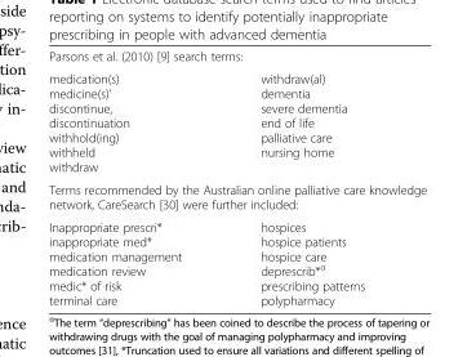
<table><tbody><tr><td colspan="2">Parsons et al. (2010) [9] search terms:</td></tr><tr><td>medication(s) medicine(s)’ discontinue, discontinuation withhold(ing) withheld withdraw</td><td>withdraw(al) dementia severe dementia end of life palliative care nursing home</td></tr><tr><td colspan="2">Terms recommended by the Australian online palliative care knowledge network, CareSearch [30] were further included:</td></tr><tr><td>Inappropriate prescri* inappropriate med* medication management medication review medic* of risk terminal care</td><td>hospices hospice patients hospice care deprescrib*<sup>α</sup> prescribing patterns polypharmacy</td></tr></tbody></table>